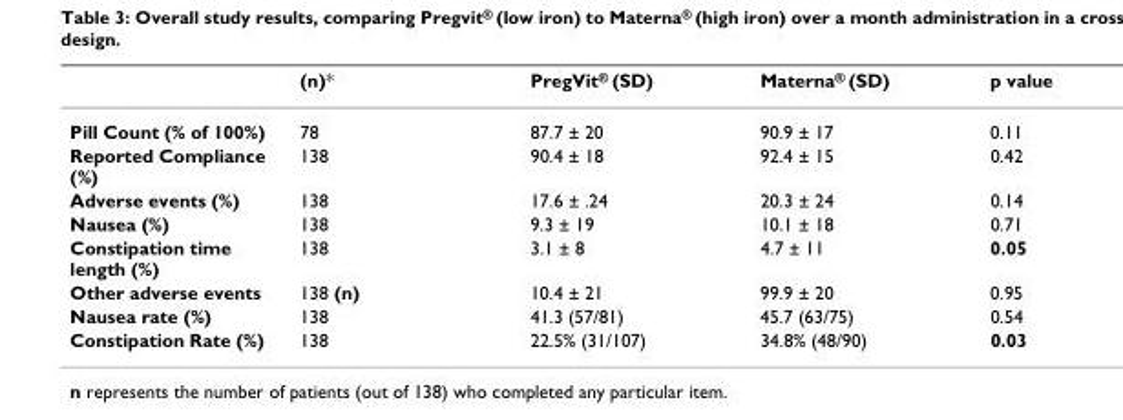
<table><thead><tr><td></td><td>(n)*</td><td>PregVit<sup>®</sup> (SD)</td><td>Materna<sup>®</sup> (SD)</td><td>p value</td></tr></thead><tbody><tr><td>Pill Count (% of 100%)</td><td>78</td><td>87.7 ± 20</td><td>90.9 ± 17</td><td>0.11</td></tr><tr><td>Reported Compliance (%)</td><td>138</td><td>90.4 ± 18</td><td>92.4 ± 15</td><td>0.42</td></tr><tr><td>Adverse events (%)</td><td>138</td><td>17.6 ± .24</td><td>20.3 ± 24</td><td>0.14</td></tr><tr><td>Nausea (%)</td><td>138</td><td>9.3 ± 19</td><td>10.1 ± 18</td><td>0.71</td></tr><tr><td>Constipation time length (%)</td><td>138</td><td>3.1 ± 8</td><td>4.7 ± 11</td><td>0.05</td></tr><tr><td>Other adverse events</td><td>138 (n)</td><td>10.4 ± 21</td><td>99.9 ± 20</td><td>0.95</td></tr><tr><td>Nausea rate (%)</td><td>138</td><td>41.3 (57/81)</td><td>45.7 (63/75)</td><td>0.54</td></tr><tr><td>Constipation Rate (%)</td><td>138</td><td>22.5% (31/107)</td><td>34.8% (48/90)</td><td>0.03</td></tr></tbody></table>